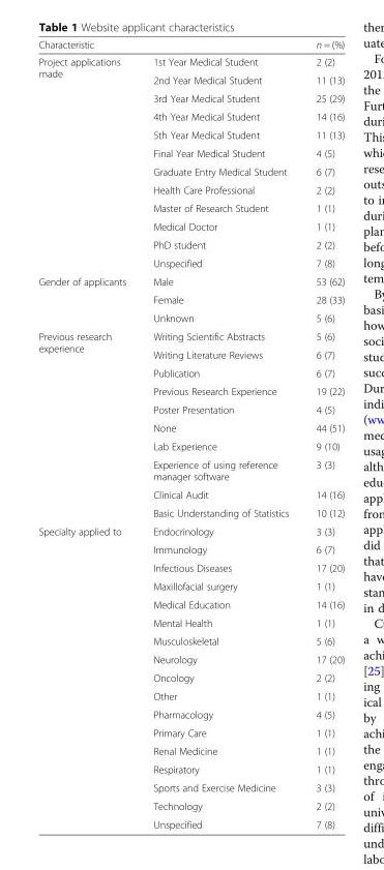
<table><thead><tr><td>Characteristic</td><td></td><td>n = (%)</td></tr></thead><tbody><tr><td rowspan="12">Project applications made</td><td>1st Year Medical Student</td><td>2 (2)</td></tr><tr><td>2nd Year Medical Student</td><td>11 (13)</td></tr><tr><td>3rd Year Medical Student</td><td>25 (29)</td></tr><tr><td>4th Year Medical Student</td><td>14 (16)</td></tr><tr><td>5th Year Medical Student</td><td>11 (13)</td></tr><tr><td>Final Year Medical Student</td><td>4 (5)</td></tr><tr><td>Graduate Entry Medical Student</td><td>6 (7)</td></tr><tr><td>Health Care Professional</td><td>2 (2)</td></tr><tr><td>Master of Research Student</td><td>1 (1)</td></tr><tr><td>Medical Doctor</td><td>1 (1)</td></tr><tr><td>PhD student</td><td>2 (2)</td></tr><tr><td>Unspecified</td><td>7 (8)</td></tr><tr><td rowspan="3">Gender of applicants</td><td>Male</td><td>53 (62)</td></tr><tr><td>Female</td><td>28 (33)</td></tr><tr><td>Unknown</td><td>5 (6)</td></tr><tr><td rowspan="10">Previous research experience</td><td>Writing Scientific Abstracts</td><td>5 (6)</td></tr><tr><td>Writing Literature Reviews</td><td>6 (7)</td></tr><tr><td>Publication</td><td>6 (7)</td></tr><tr><td>Previous Research Experience</td><td>19 (22)</td></tr><tr><td>Poster Presentation</td><td>4 (5)</td></tr><tr><td>None</td><td>44 (51)</td></tr><tr><td>Lab Experience</td><td>9 (10)</td></tr><tr><td>Experience of using reference manager software</td><td>3 (3)</td></tr><tr><td>Clinical Audit</td><td>14 (16)</td></tr><tr><td>Basic Understanding of Statistics</td><td>10 (12)</td></tr><tr><td rowspan="17">Specialty applied to</td><td>Endocrinology</td><td>3 (3)</td></tr><tr><td>Immunology</td><td>6 (7)</td></tr><tr><td>Infectious Diseases</td><td>17 (20)</td></tr><tr><td>Maxillofacial surgery</td><td>1 (1)</td></tr><tr><td>Medical Education</td><td>14 (16)</td></tr><tr><td>Mental Health</td><td>1 (1)</td></tr><tr><td>Musculoskeletal</td><td>5 (6)</td></tr><tr><td>Neurology</td><td>17 (20)</td></tr><tr><td>Oncology</td><td>2 (2)</td></tr><tr><td>Other</td><td>1 (1)</td></tr><tr><td>Pharmacology</td><td>4 (5)</td></tr><tr><td>Primary Care</td><td>1 (1)</td></tr><tr><td>Renal Medicine</td><td>1 (1)</td></tr><tr><td>Respiratory</td><td>1 (1)</td></tr><tr><td>Sports and Exercise Medicine</td><td>3 (3)</td></tr><tr><td>Technology</td><td>2 (2)</td></tr><tr><td>Unspecified</td><td>7 (8)</td></tr></tbody></table>